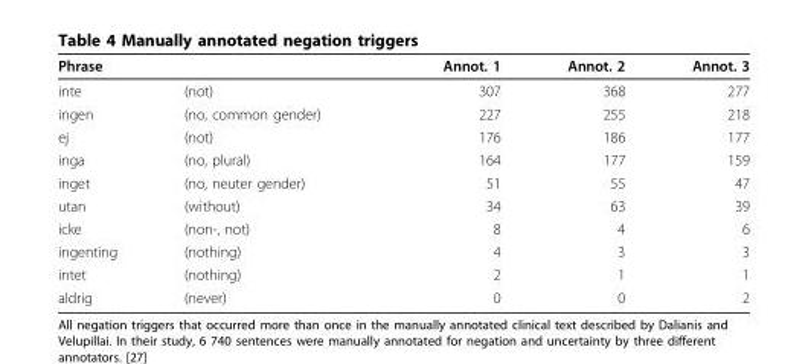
<table><thead><tr><td>Phrase</td><td></td><td>Annot. 1</td><td>Annot. 2</td><td>Annot. 3</td></tr></thead><tbody><tr><td>inte</td><td>(not)</td><td>307</td><td>368</td><td>277</td></tr><tr><td>ingen</td><td>(no, common gender)</td><td>227</td><td>255</td><td>218</td></tr><tr><td>ej</td><td>(not)</td><td>176</td><td>186</td><td>177</td></tr><tr><td>inga</td><td>(no, plural)</td><td>164</td><td>177</td><td>159</td></tr><tr><td>inget</td><td>(no, neuter gender)</td><td>51</td><td>55</td><td>47</td></tr><tr><td>utan</td><td>(without)</td><td>34</td><td>63</td><td>39</td></tr><tr><td>icke</td><td>(non-, not)</td><td>8</td><td>4</td><td>6</td></tr><tr><td>ingenting</td><td>(nothing)</td><td>4</td><td>3</td><td>3</td></tr><tr><td>intet</td><td>(nothing)</td><td>2</td><td>1</td><td>1</td></tr><tr><td>aldrig</td><td>(never)</td><td>0</td><td>0</td><td>2</td></tr></tbody></table>